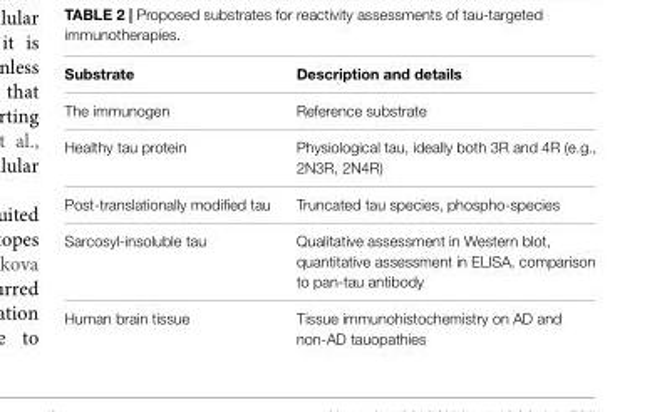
<table><thead><tr><td>Substrate</td><td>Description and details</td></tr></thead><tbody><tr><td>The immunogen</td><td>Reference substrate</td></tr><tr><td>Healthy tau protein</td><td>Physiological tau, ideally both 3R and 4R (e.g., 2N3R, 2N4R)</td></tr><tr><td>Post-translationally modified tau</td><td>Truncated tau species, phospho-species</td></tr><tr><td>Sarcosyl-insoluble tau</td><td>Qualitative assessment in Western blot, quantitative assessment in ELISA, comparison to pan-tau antibody</td></tr><tr><td>Human brain tissue</td><td>Tissue immunohistochemistry on AD and non-AD tauopathies</td></tr></tbody></table>